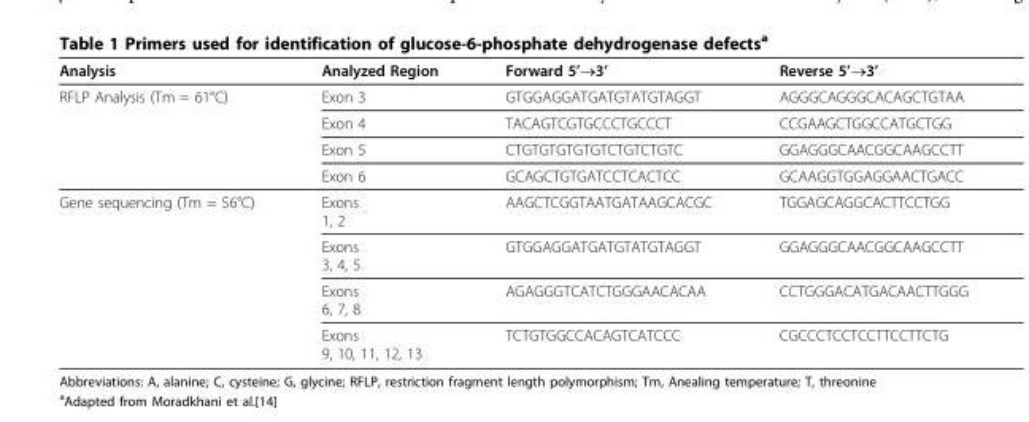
<table><thead><tr><td>Analysis</td><td>Analyzed Region</td><td>Forward 5’→3’</td><td>Reverse 5’→3’</td></tr></thead><tbody><tr><td rowspan="4">RFLP Analysis (Tm = 61°C)</td><td>Exon 3</td><td>GTGGAGGATGATGTATGTAGGT</td><td>AGGGCAGGGCACAGCTGTAA</td></tr><tr><td>Exon 4</td><td>TACAGTCGTGCCCTGCCCT</td><td>CCGAAGCTGGCCATGCTGG</td></tr><tr><td>Exon 5</td><td>CTGTGTGTGTGTCTGTCTGTC</td><td>GGAGGGCAACGGCAAGCCTT</td></tr><tr><td>Exon 6</td><td>GCAGCTGTGATCCTCACTCC</td><td>GCAAGGTGGAGGAACTGACC</td></tr><tr><td rowspan="4">Gene sequencing (Tm = 56°C)</td><td>Exons 1, 2</td><td>AAGCTCGGTAATGATAAGCACGC</td><td>TGGAGCAGGCACTTCCTGG</td></tr><tr><td>Exons 3, 4, 5</td><td>GTGGAGGATGATGTATGTAGGT</td><td>GGAGGGCAACGGCAAGCCTT</td></tr><tr><td>Exons 6, 7, 8</td><td>AGAGGGTCATCTGGGAACACAA</td><td>CCTGGGACATGACAACTTGGG</td></tr><tr><td>Exons 9, 10, 11, 12, 13</td><td>TCTGTGGCCACAGTCATCCC</td><td>CGCCCTCCTCCTTCCTTCTG</td></tr></tbody></table>